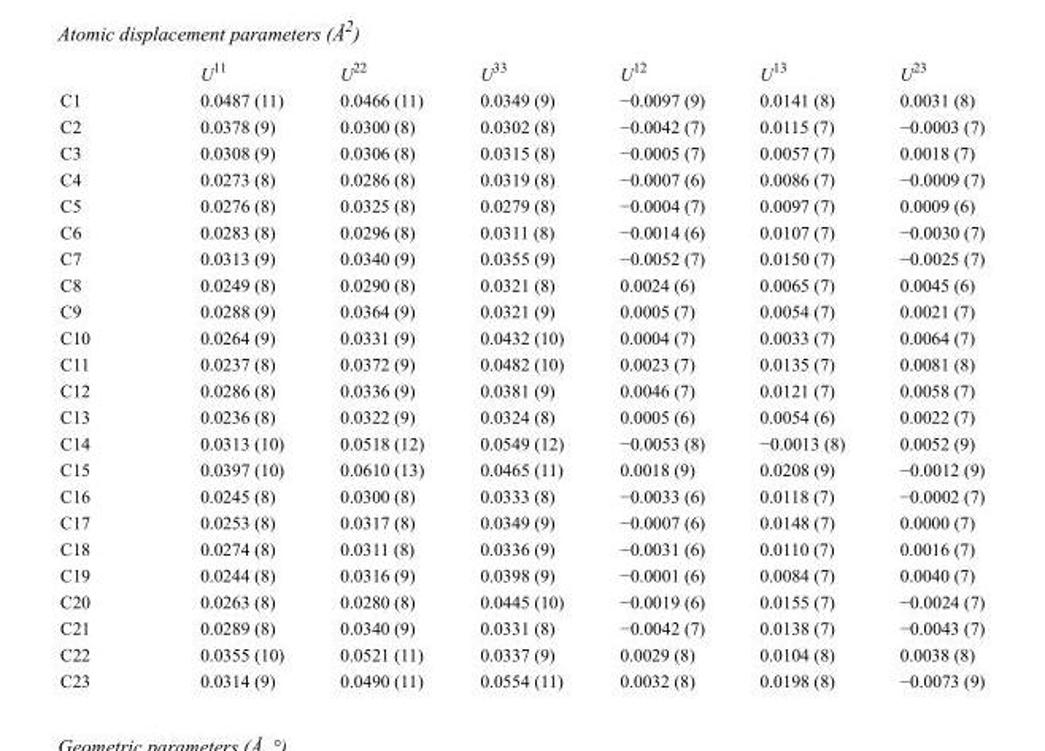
<table><thead><tr><td></td><td>U<sup>11</sup></td><td>U<sup>22</sup></td><td>U<sup>33</sup></td><td>U<sup>12</sup></td><td>U<sup>13</sup></td><td>U<sup>23</sup></td></tr></thead><tbody><tr><td>C1</td><td>0.0487 (11)</td><td>0.0466 (11)</td><td>0.0349 (9)</td><td>−0.0097 (9)</td><td>0.0141 (8)</td><td>0.0031 (8)</td></tr><tr><td>C2</td><td>0.0378 (9)</td><td>0.0300 (8)</td><td>0.0302 (8)</td><td>−0.0042 (7)</td><td>0.0115 (7)</td><td>−0.0003 (7)</td></tr><tr><td>C3</td><td>0.0308 (9)</td><td>0.0306 (8)</td><td>0.0315 (8)</td><td>−0.0005 (7)</td><td>0.0057 (7)</td><td>0.0018 (7)</td></tr><tr><td>C4</td><td>0.0273 (8)</td><td>0.0286 (8)</td><td>0.0319 (8)</td><td>−0.0007 (6)</td><td>0.0086 (7)</td><td>−0.0009 (7)</td></tr><tr><td>C5</td><td>0.0276 (8)</td><td>0.0325 (8)</td><td>0.0279 (8)</td><td>−0.0004 (7)</td><td>0.0097 (7)</td><td>0.0009 (6)</td></tr><tr><td>C6</td><td>0.0283 (8)</td><td>0.0296 (8)</td><td>0.0311 (8)</td><td>−0.0014 (6)</td><td>0.0107 (7)</td><td>−0.0030 (7)</td></tr><tr><td>C7</td><td>0.0313 (9)</td><td>0.0340 (9)</td><td>0.0355 (9)</td><td>−0.0052 (7)</td><td>0.0150 (7)</td><td>−0.0025 (7)</td></tr><tr><td>C8</td><td>0.0249 (8)</td><td>0.0290 (8)</td><td>0.0321 (8)</td><td>0.0024 (6)</td><td>0.0065 (7)</td><td>0.0045 (6)</td></tr><tr><td>C9</td><td>0.0288 (9)</td><td>0.0364 (9)</td><td>0.0321 (9)</td><td>0.0005 (7)</td><td>0.0054 (7)</td><td>0.0021 (7)</td></tr><tr><td>C10</td><td>0.0264 (9)</td><td>0.0331 (9)</td><td>0.0432 (10)</td><td>0.0004 (7)</td><td>0.0033 (7)</td><td>0.0064 (7)</td></tr><tr><td>C11</td><td>0.0237 (8)</td><td>0.0372 (9)</td><td>0.0482 (10)</td><td>0.0023 (7)</td><td>0.0135 (7)</td><td>0.0081 (8)</td></tr><tr><td>C12</td><td>0.0286 (8)</td><td>0.0336 (9)</td><td>0.0381 (9)</td><td>0.0046 (7)</td><td>0.0121 (7)</td><td>0.0058 (7)</td></tr><tr><td>C13</td><td>0.0236 (8)</td><td>0.0322 (9)</td><td>0.0324 (8)</td><td>0.0005 (6)</td><td>0.0054 (6)</td><td>0.0022 (7)</td></tr><tr><td>C14</td><td>0.0313 (10)</td><td>0.0518 (12)</td><td>0.0549 (12)</td><td>−0.0053 (8)</td><td>−0.0013 (8)</td><td>0.0052 (9)</td></tr><tr><td>C15</td><td>0.0397 (10)</td><td>0.0610 (13)</td><td>0.0465 (11)</td><td>0.0018 (9)</td><td>0.0208 (9)</td><td>−0.0012 (9)</td></tr><tr><td>C16</td><td>0.0245 (8)</td><td>0.0300 (8)</td><td>0.0333 (8)</td><td>−0.0033 (6)</td><td>0.0118 (7)</td><td>−0.0002 (7)</td></tr><tr><td>C17</td><td>0.0253 (8)</td><td>0.0317 (8)</td><td>0.0349 (9)</td><td>−0.0007 (6)</td><td>0.0148 (7)</td><td>0.0000 (7)</td></tr><tr><td>C18</td><td>0.0274 (8)</td><td>0.0311 (8)</td><td>0.0336 (9)</td><td>−0.0031 (6)</td><td>0.0110 (7)</td><td>0.0016 (7)</td></tr><tr><td>C19</td><td>0.0244 (8)</td><td>0.0316 (9)</td><td>0.0398 (9)</td><td>−0.0001 (6)</td><td>0.0084 (7)</td><td>0.0040 (7)</td></tr><tr><td>C20</td><td>0.0263 (8)</td><td>0.0280 (8)</td><td>0.0445 (10)</td><td>−0.0019 (6)</td><td>0.0155 (7)</td><td>−0.0024 (7)</td></tr><tr><td>C21</td><td>0.0289 (8)</td><td>0.0340 (9)</td><td>0.0331 (8)</td><td>−0.0042 (7)</td><td>0.0138 (7)</td><td>−0.0043 (7)</td></tr><tr><td>C22</td><td>0.0355 (10)</td><td>0.0521 (11)</td><td>0.0337 (9)</td><td>0.0029 (8)</td><td>0.0104 (8)</td><td>0.0038 (8)</td></tr><tr><td>C23</td><td>0.0314 (9)</td><td>0.0490 (11)</td><td>0.0554 (11)</td><td>0.0032 (8)</td><td>0.0198 (8)</td><td>−0.0073 (9)</td></tr></tbody></table>